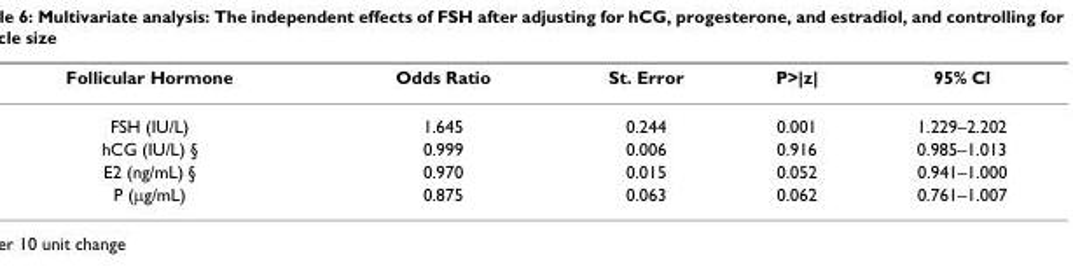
<table><thead><tr><td>Follicular Hormone</td><td>Odds Ratio</td><td>St. Error</td><td>P&gt;|z|</td><td>95% Cl</td></tr></thead><tbody><tr><td>FSH (IU/L)</td><td>1.645</td><td>0.244</td><td>0.001</td><td>1.229–2.202</td></tr><tr><td>hCG (IU/L) §</td><td>0.999</td><td>0.006</td><td>0.916</td><td>0.985–1.013</td></tr><tr><td>E2 (ng/mL) §</td><td>0.970</td><td>0.015</td><td>0.052</td><td>0.941–1.000</td></tr><tr><td>P (μg/mL)</td><td>0.875</td><td>0.063</td><td>0.062</td><td>0.761–1.007</td></tr></tbody></table>